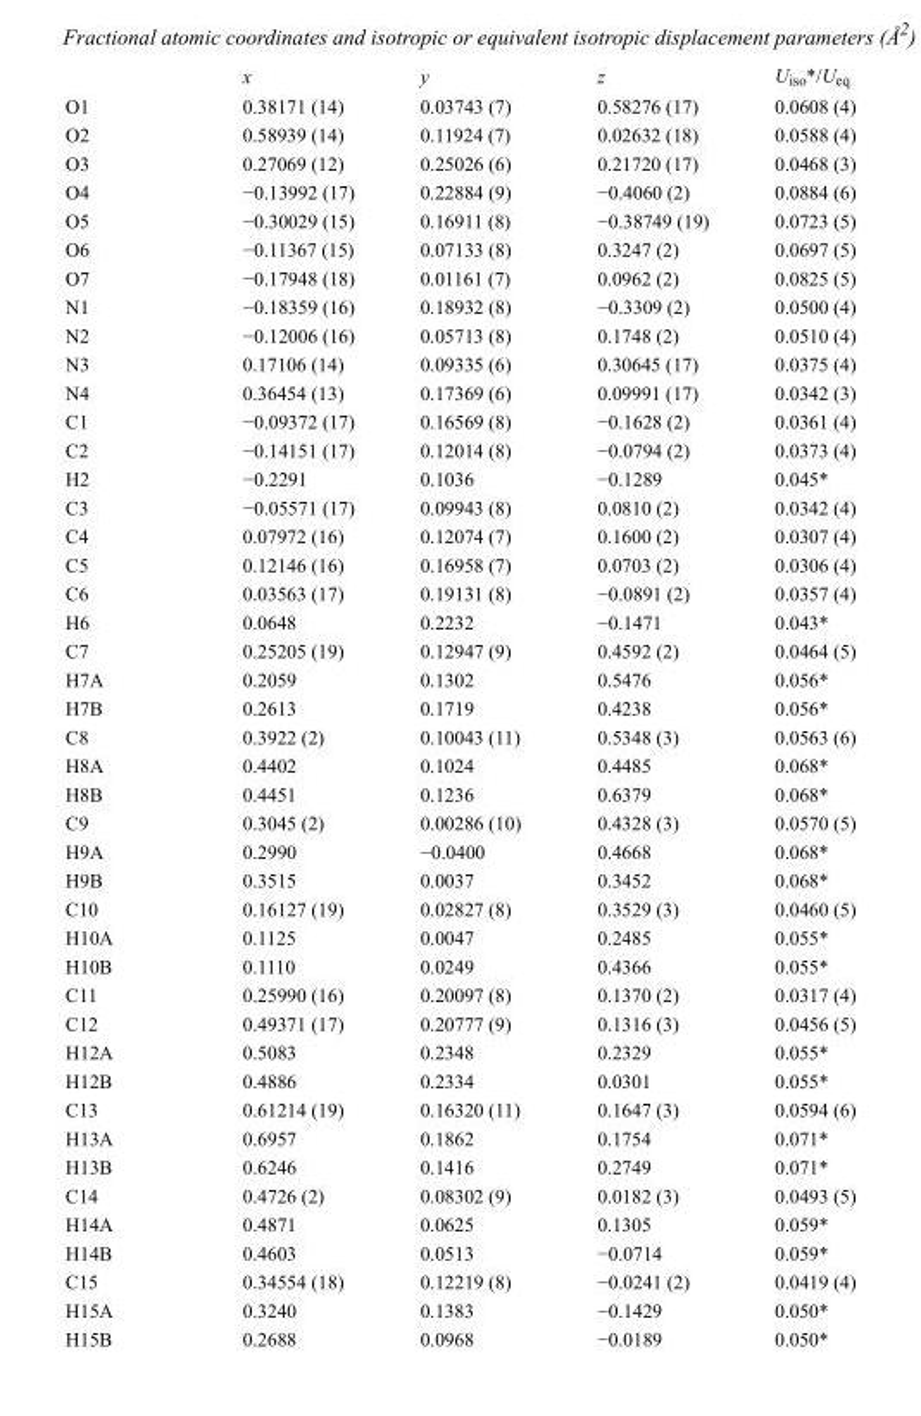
<table><thead><tr><td></td><td>x</td><td>y</td><td>z</td><td>U<sub>iso</sub>*/U<sub>eq</sub></td></tr></thead><tbody><tr><td>O1</td><td>0.38171 (14)</td><td>0.03743 (7)</td><td>0.58276 (17)</td><td>0.0608 (4)</td></tr><tr><td>O2</td><td>0.58939 (14)</td><td>0.11924 (7)</td><td>0.02632 (18)</td><td>0.0588 (4)</td></tr><tr><td>O3</td><td>0.27069 (12)</td><td>0.25026 (6)</td><td>0.21720 (17)</td><td>0.0468 (3)</td></tr><tr><td>O4</td><td>−0.13992 (17)</td><td>0.22884 (9)</td><td>−0.4060 (2)</td><td>0.0884 (6)</td></tr><tr><td>O5</td><td>−0.30029 (15)</td><td>0.16911 (8)</td><td>−0.38749 (19)</td><td>0.0723 (5)</td></tr><tr><td>O6</td><td>−0.11367 (15)</td><td>0.07133 (8)</td><td>0.3247 (2)</td><td>0.0697 (5)</td></tr><tr><td>O7</td><td>−0.17948 (18)</td><td>0.01161 (7)</td><td>0.0962 (2)</td><td>0.0825 (5)</td></tr><tr><td>N1</td><td>−0.18359 (16)</td><td>0.18932 (8)</td><td>−0.3309 (2)</td><td>0.0500 (4)</td></tr><tr><td>N2</td><td>−0.12006 (16)</td><td>0.05713 (8)</td><td>0.1748 (2)</td><td>0.0510 (4)</td></tr><tr><td>N3</td><td>0.17106 (14)</td><td>0.09335 (6)</td><td>0.30645 (17)</td><td>0.0375 (4)</td></tr><tr><td>N4</td><td>0.36454 (13)</td><td>0.17369 (6)</td><td>0.09991 (17)</td><td>0.0342 (3)</td></tr><tr><td>C1</td><td>−0.09372 (17)</td><td>0.16569 (8)</td><td>−0.1628 (2)</td><td>0.0361 (4)</td></tr><tr><td>C2</td><td>−0.14151 (17)</td><td>0.12014 (8)</td><td>−0.0794 (2)</td><td>0.0373 (4)</td></tr><tr><td>H2</td><td>−0.2291</td><td>0.1036</td><td>−0.1289</td><td>0.045*</td></tr><tr><td>C3</td><td>−0.05571 (17)</td><td>0.09943 (8)</td><td>0.0810 (2)</td><td>0.0342 (4)</td></tr><tr><td>C4</td><td>0.07972 (16)</td><td>0.12074 (7)</td><td>0.1600 (2)</td><td>0.0307 (4)</td></tr><tr><td>C5</td><td>0.12146 (16)</td><td>0.16958 (7)</td><td>0.0703 (2)</td><td>0.0306 (4)</td></tr><tr><td>C6</td><td>0.03563 (17)</td><td>0.19131 (8)</td><td>−0.0891 (2)</td><td>0.0357 (4)</td></tr><tr><td>H6</td><td>0.0648</td><td>0.2232</td><td>−0.1471</td><td>0.043*</td></tr><tr><td>C7</td><td>0.25205 (19)</td><td>0.12947 (9)</td><td>0.4592 (2)</td><td>0.0464 (5)</td></tr><tr><td>H7A</td><td>0.2059</td><td>0.1302</td><td>0.5476</td><td>0.056*</td></tr><tr><td>H7B</td><td>0.2613</td><td>0.1719</td><td>0.4238</td><td>0.056*</td></tr><tr><td>C8</td><td>0.3922 (2)</td><td>0.10043 (11)</td><td>0.5348 (3)</td><td>0.0563 (6)</td></tr><tr><td>H8A</td><td>0.4402</td><td>0.1024</td><td>0.4485</td><td>0.068*</td></tr><tr><td>H8B</td><td>0.4451</td><td>0.1236</td><td>0.6379</td><td>0.068*</td></tr><tr><td>C9</td><td>0.3045 (2)</td><td>0.00286 (10)</td><td>0.4328 (3)</td><td>0.0570 (5)</td></tr><tr><td>H9A</td><td>0.2990</td><td>−0.0400</td><td>0.4668</td><td>0.068*</td></tr><tr><td>H9B</td><td>0.3515</td><td>0.0037</td><td>0.3452</td><td>0.068*</td></tr><tr><td>C10</td><td>0.16127 (19)</td><td>0.02827 (8)</td><td>0.3529 (3)</td><td>0.0460 (5)</td></tr><tr><td>H10A</td><td>0.1125</td><td>0.0047</td><td>0.2485</td><td>0.055*</td></tr><tr><td>H10B</td><td>0.1110</td><td>0.0249</td><td>0.4366</td><td>0.055*</td></tr><tr><td>C11</td><td>0.25990 (16)</td><td>0.20097 (8)</td><td>0.1370 (2)</td><td>0.0317 (4)</td></tr><tr><td>C12</td><td>0.49371 (17)</td><td>0.20777 (9)</td><td>0.1316 (3)</td><td>0.0456 (5)</td></tr><tr><td>H12A</td><td>0.5083</td><td>0.2348</td><td>0.2329</td><td>0.055*</td></tr><tr><td>H12B</td><td>0.4886</td><td>0.2334</td><td>0.0301</td><td>0.055*</td></tr><tr><td>C13</td><td>0.61214 (19)</td><td>0.16320 (11)</td><td>0.1647 (3)</td><td>0.0594 (6)</td></tr><tr><td>H13A</td><td>0.6957</td><td>0.1862</td><td>0.1754</td><td>0.071*</td></tr><tr><td>H13B</td><td>0.6246</td><td>0.1416</td><td>0.2749</td><td>0.071*</td></tr><tr><td>C14</td><td>0.4726 (2)</td><td>0.08302 (9)</td><td>0.0182 (3)</td><td>0.0493 (5)</td></tr><tr><td>H14A</td><td>0.4871</td><td>0.0625</td><td>0.1305</td><td>0.059*</td></tr><tr><td>H14B</td><td>0.4603</td><td>0.0513</td><td>−0.0714</td><td>0.059*</td></tr><tr><td>C15</td><td>0.34554 (18)</td><td>0.12219 (8)</td><td>−0.0241 (2)</td><td>0.0419 (4)</td></tr><tr><td>H15A</td><td>0.3240</td><td>0.1383</td><td>−0.1429</td><td>0.050*</td></tr><tr><td>H15B</td><td>0.2688</td><td>0.0968</td><td>−0.0189</td><td>0.050*</td></tr></tbody></table>